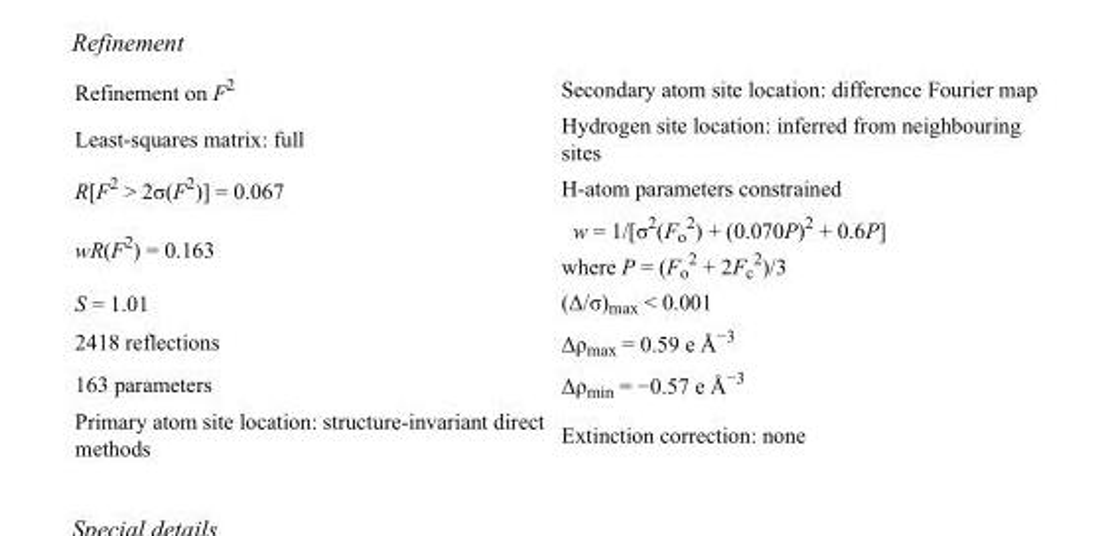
<table><tbody><tr><td>Refinement on F<sup>2</sup></td><td>Secondary atom site location: difference Fourier map</td></tr><tr><td>Least-squares matrix: full</td><td>Hydrogen site location: inferred from neighbouring sites</td></tr><tr><td>R[F<sup>2</sup> &gt; 2σ(F<sup>2</sup>)] = 0.067</td><td>H-atom parameters constrained</td></tr><tr><td>wR(F<sup>2</sup>) = 0.163</td><td>w = 1/[σ<sup>2</sup>(F<sub>o</sub> <sup>2</sup>) + (0.070P)<sup>2</sup> + 0.6P] where P = (F<sub>o</sub> <sup>2</sup> + 2F<sub>c</sub> <sup>2</sup>)/3</td></tr><tr><td>S = 1.01</td><td>(Δ/σ)<sub>max</sub> &lt; 0.001</td></tr><tr><td>2418 reflections</td><td>Δρ<sub>max</sub> = 0.59 e Å<sup>−3</sup></td></tr><tr><td>163 parameters</td><td>Δρ<sub>min</sub> = −0.57 e Å<sup>−3</sup></td></tr><tr><td>Primary atom site location: structure-invariant direct methods</td><td>Extinction correction: none</td></tr></tbody></table>